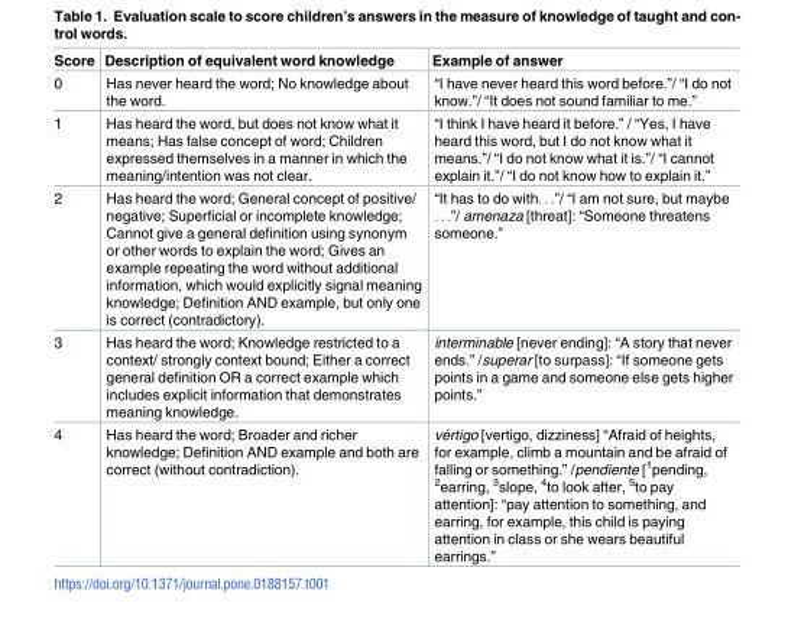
<table><thead><tr><td>Score</td><td>Description of equivalent word knowledge</td><td>Example of answer</td></tr></thead><tbody><tr><td>0</td><td>Has never heard the word; No knowledge about the word.</td><td>“I have never heard this word before.”/ “I do not know.”/ “It does not sound familiar to me.”</td></tr><tr><td>1</td><td>Has heard the word, but does not know what it means; Has false concept of word; Children expressed themselves in a manner in which the meaning/intention was not clear.</td><td>“I think I have heard it before.” / “Yes, I have heard this word, but I do not know what it means.”/ “I do not know what it is.”/ “I cannot explain it.”/ “I do not know how to explain it.”</td></tr><tr><td>2</td><td>Has heard the word; General concept of positive/ negative; Superficial or incomplete knowledge; Cannot give a general definition using synonym or other words to explain the word; Gives an example repeating the word without additional information, which would explicitly signal meaning knowledge; Definition AND example, but only one is correct (contradictory).</td><td>“It has to do with. . .”/ “I am not sure, but maybe . . .”/ amenaza [threat]: “Someone threatens someone.”</td></tr><tr><td>3</td><td>Has heard the word; Knowledge restricted to a context/ strongly context bound; Either a correct general definition OR a correct example which includes explicit information that demonstrates meaning knowledge.</td><td>interminable [never ending]: “A story that never ends.” /superar [to surpass]: “If someone gets points in a game and someone else gets higher points.”</td></tr><tr><td>4</td><td>Has heard the word; Broader and richer knowledge; Definition AND example and both are correct (without contradiction).</td><td>ve´rtigo [vertigo, dizziness] “Afraid of heights, for example, climb a mountain and be afraid of falling or something.” /pendiente [1pending, 2earring, 3slope, 4to look after, 5to pay attention]: “pay attention to something, and earring, for example, this child is paying attention in class or she wears beautiful earrings.”</td></tr></tbody></table>